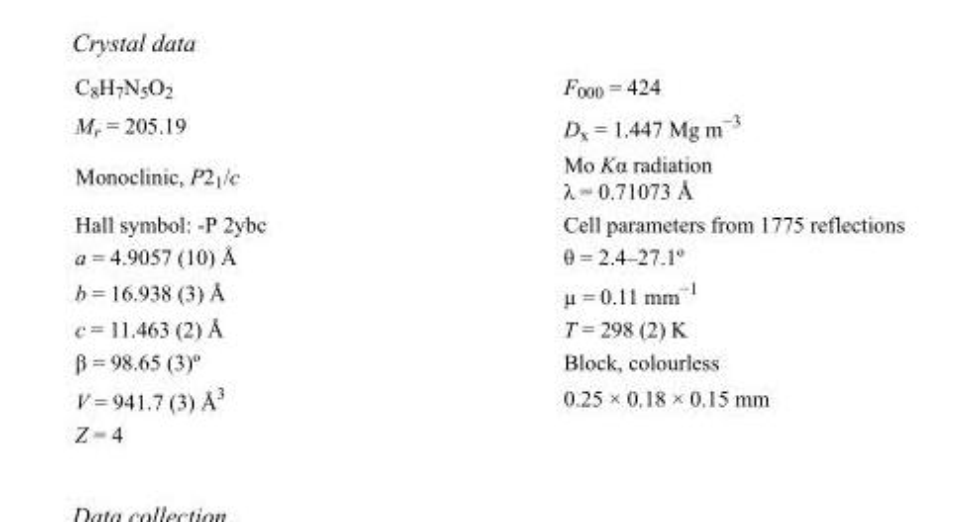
<table><tbody><tr><td>C<sub>8</sub>H<sub>7</sub>N<sub>5</sub>O<sub>2</sub></td><td>F000 = 424</td></tr><tr><td>M<sub>r</sub> = 205.19</td><td>D<sub>x</sub> = 1.447 Mg m<sup>−3</sup></td></tr><tr><td>Monoclinic, P2<sub>1</sub>/c</td><td>Mo Kα radiation λ = 0.71073 Å</td></tr><tr><td>Hall symbol: -P 2ybc</td><td>Cell parameters from 1775 reflections</td></tr><tr><td>a = 4.9057 (10) Å</td><td>θ = 2.4–27.1º</td></tr><tr><td>b = 16.938 (3) Å</td><td>µ = 0.11 mm<sup>−1</sup></td></tr><tr><td>c = 11.463 (2) Å</td><td>T = 298 (2) K</td></tr><tr><td>β = 98.65 (3)º</td><td>Block, colourless</td></tr><tr><td>V = 941.7 (3) Å<sup>3</sup></td><td>0.25 × 0.18 × 0.15 mm</td></tr><tr><td>Z = 4</td><td></td></tr></tbody></table>